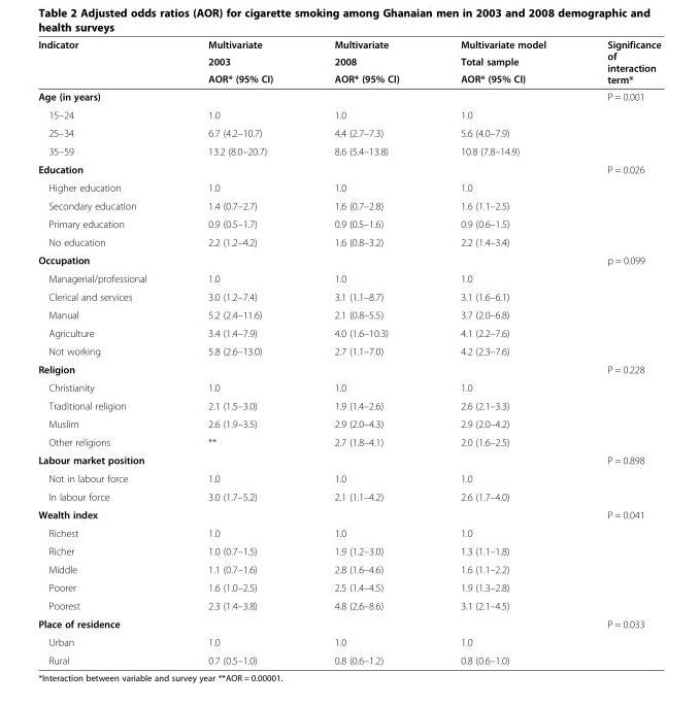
<table><thead><tr><td rowspan="3">Indicator</td><td rowspan="3">Multivariate 2003 AOR* (95% CI)</td><td rowspan="3">Multivariate 2008 AOR* (95% CI)</td><td rowspan="3">Multivariate model Total sample AOR* (95% CI)</td><td rowspan="3">Significance of interaction term*</td></tr><tr></tr><tr></tr></thead><tbody><tr><td>Age (in years)</td><td></td><td></td><td></td><td>P = 0.001</td></tr><tr><td>15–24</td><td>1.0</td><td>1.0</td><td>1.0</td><td></td></tr><tr><td>25–34</td><td>6.7 (4.2–10.7)</td><td>4.4 (2.7–7.3)</td><td>5.6 (4.0–7.9)</td><td></td></tr><tr><td>35–59</td><td>13.2 (8.0–20.7)</td><td>8.6 (5.4–13.8)</td><td>10.8 (7.8–14.9)</td><td></td></tr><tr><td>Education</td><td></td><td></td><td></td><td>P = 0.026</td></tr><tr><td>Higher education</td><td>1.0</td><td>1.0</td><td>1.0</td><td></td></tr><tr><td>Secondary education</td><td>1.4 (0.7–2.7)</td><td>1.6 (0.7–2.8)</td><td>1.6 (1.1–2.5)</td><td></td></tr><tr><td>Primary education</td><td>0.9 (0.5–1.7)</td><td>0.9 (0.5–1.6)</td><td>0.9 (0.6–1.5)</td><td></td></tr><tr><td>No education</td><td>2.2 (1.2–4.2)</td><td>1.6 (0.8–3.2)</td><td>2.2 (1.4–3.4)</td><td></td></tr><tr><td>Occupation</td><td></td><td></td><td></td><td>p = 0.099</td></tr><tr><td>Managerial/professional</td><td>1.0</td><td>1.0</td><td>1.0</td><td></td></tr><tr><td>Clerical and services</td><td>3.0 (1.2–7.4)</td><td>3.1 (1.1–8.7)</td><td>3.1 (1.6–6.1)</td><td></td></tr><tr><td>Manual</td><td>5.2 (2.4–11.6)</td><td>2.1 (0.8–5.5)</td><td>3.7 (2.0–6.8)</td><td></td></tr><tr><td>Agriculture</td><td>3.4 (1.4–7.9)</td><td>4.0 (1.6–10.3)</td><td>4.1 (2.2–7.6)</td><td></td></tr><tr><td>Not working</td><td>5.8 (2.6–13.0)</td><td>2.7 (1.1–7.0)</td><td>4.2 (2.3–7.6)</td><td></td></tr><tr><td>Religion</td><td></td><td></td><td></td><td>P = 0.228</td></tr><tr><td>Christianity</td><td>1.0</td><td>1.0</td><td>1.0</td><td></td></tr><tr><td>Traditional religion</td><td>2.1 (1.5–3.0)</td><td>1.9 (1.4–2.6)</td><td>2.6 (2.1–3.3)</td><td></td></tr><tr><td>Muslim</td><td>2.6 (1.9–3.5)</td><td>2.9 (2.0–4.3)</td><td>2.9 (2.0–4.2)</td><td></td></tr><tr><td>Other religions</td><td>**</td><td>2.7 (1.8–4.1)</td><td>2.0 (1.6–2.5)</td><td></td></tr><tr><td>Labour market position</td><td></td><td></td><td></td><td>P = 0.898</td></tr><tr><td>Not in labour force</td><td>1.0</td><td>1.0</td><td>1.0</td><td></td></tr><tr><td>In labour force</td><td>3.0 (1.7–5.2)</td><td>2.1 (1.1–4.2)</td><td>2.6 (1.7–4.0)</td><td></td></tr><tr><td>Wealth index</td><td></td><td></td><td></td><td>P = 0.041</td></tr><tr><td>Richest</td><td>1.0</td><td>1.0</td><td>1.0</td><td></td></tr><tr><td>Richer</td><td>1.0 (0.7–1.5)</td><td>1.9 (1.2–3.0)</td><td>1.3 (1.1–1.8)</td><td></td></tr><tr><td>Middle</td><td>1.1 (0.7–1.6)</td><td>2.8 (1.6–4.6)</td><td>1.6 (1.1–2.2)</td><td></td></tr><tr><td>Poorer</td><td>1.6 (1.0–2.5)</td><td>2.5 (1.4–4.5)</td><td>1.9 (1.3–2.8)</td><td></td></tr><tr><td>Poorest</td><td>2.3 (1.4–3.8)</td><td>4.8 (2.6–8.6)</td><td>3.1 (2.1–4.5)</td><td></td></tr><tr><td>Place of residence</td><td></td><td></td><td></td><td>P = 0.033</td></tr><tr><td>Urban</td><td>1.0</td><td>1.0</td><td>1.0</td><td></td></tr><tr><td>Rural</td><td>0.7 (0.5–1.0)</td><td>0.8 (0.6–1.2)</td><td>0.8 (0.6–1.0)</td><td></td></tr></tbody></table>